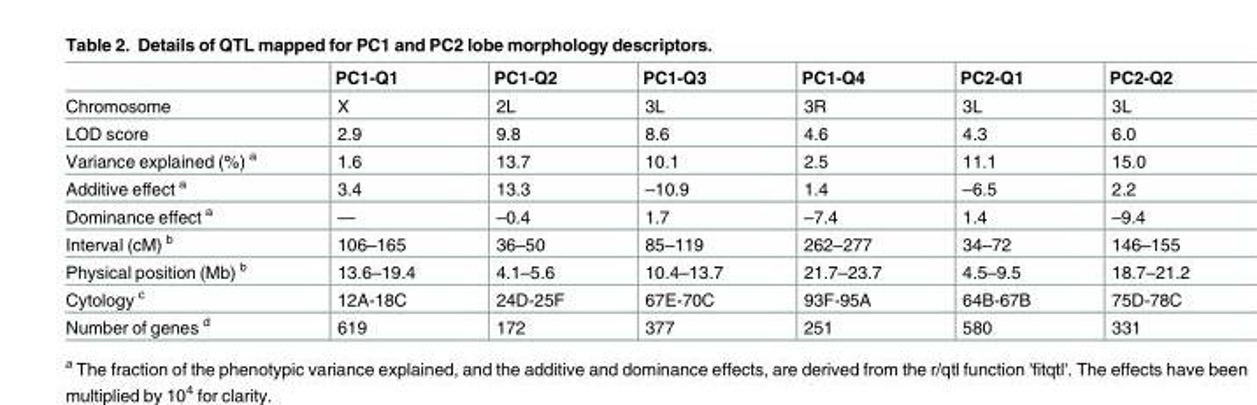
<table><thead><tr><td></td><td>PC1-Q1</td><td>PC1-Q2</td><td>PC1-Q3</td><td>PC1-Q4</td><td>PC2-Q1</td><td>PC2-Q2</td></tr></thead><tbody><tr><td>Chromosome</td><td>X</td><td>2L</td><td>3L</td><td>3R</td><td>3L</td><td>3L</td></tr><tr><td>LOD score</td><td>2.9</td><td>9.8</td><td>8.6</td><td>4.6</td><td>4.3</td><td>6.0</td></tr><tr><td>Variance explained (%) <sup>a</sup></td><td>1.6</td><td>13.7</td><td>10.1</td><td>2.5</td><td>11.1</td><td>15.0</td></tr><tr><td>Additive effect <sup>a</sup></td><td>3.4</td><td>13.3</td><td>–10.9</td><td>1.4</td><td>–6.5</td><td>2.2</td></tr><tr><td>Dominance effect <sup>a</sup></td><td>—</td><td>–0.4</td><td>1.7</td><td>–7.4</td><td>1.4</td><td>–9.4</td></tr><tr><td>Interval (cM) <sup>b</sup></td><td>106–165</td><td>36–50</td><td>85–119</td><td>262–277</td><td>34–72</td><td>146–155</td></tr><tr><td>Physical position (Mb) <sup>b</sup></td><td>13.6–19.4</td><td>4.1–5.6</td><td>10.4–13.7</td><td>21.7–23.7</td><td>4.5–9.5</td><td>18.7–21.2</td></tr><tr><td>Cytology <sup>c</sup></td><td>12A-18C</td><td>24D-25F</td><td>67E-70C</td><td>93F-95A</td><td>64B-67B</td><td>75D-78C</td></tr><tr><td>Number of genes <sup>d</sup></td><td>619</td><td>172</td><td>377</td><td>251</td><td>580</td><td>331</td></tr></tbody></table>